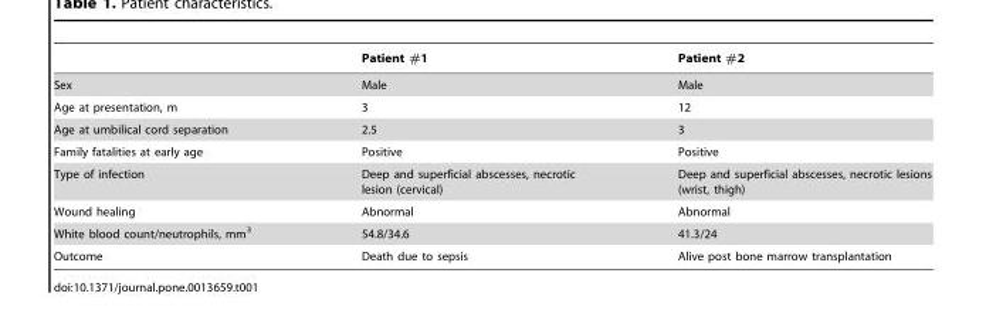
<table><thead><tr><td></td><td>Patient #1</td><td>Patient #2</td></tr></thead><tbody><tr><td>Sex</td><td>Male</td><td>Male</td></tr><tr><td>Age at presentation, m</td><td>3</td><td>12</td></tr><tr><td>Age at umbilical cord separation</td><td>2.5</td><td>3</td></tr><tr><td>Family fatalities at early age</td><td>Positive</td><td>Positive</td></tr><tr><td>Type of infection</td><td>Deep and superficial abscesses, necrotic lesion (cervical)</td><td>Deep and superficial abscesses, necrotic lesions (wrist, thigh)</td></tr><tr><td>Wound healing</td><td>Abnormal</td><td>Abnormal</td></tr><tr><td>White blood count/neutrophils, mm<sup>3</sup></td><td>54.8/34.6</td><td>41.3/24</td></tr><tr><td>Outcome</td><td>Death due to sepsis</td><td>Alive post bone marrow transplantation</td></tr></tbody></table>